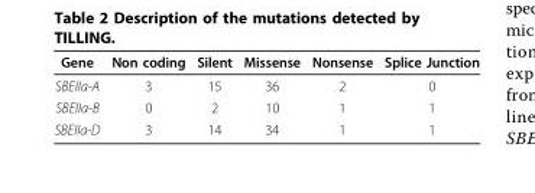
<table><thead><tr><td>Gene</td><td>Non coding</td><td>Silent</td><td>Missense</td><td>Nonsense</td><td>Splice Junction</td></tr></thead><tbody><tr><td>SBEIIa-A</td><td>3</td><td>15</td><td>36</td><td>2</td><td>0</td></tr><tr><td>SBEIIa-B</td><td>0</td><td>2</td><td>10</td><td>1</td><td>1</td></tr><tr><td>SBEIIa-D</td><td>3</td><td>14</td><td>34</td><td>1</td><td>1</td></tr></tbody></table>